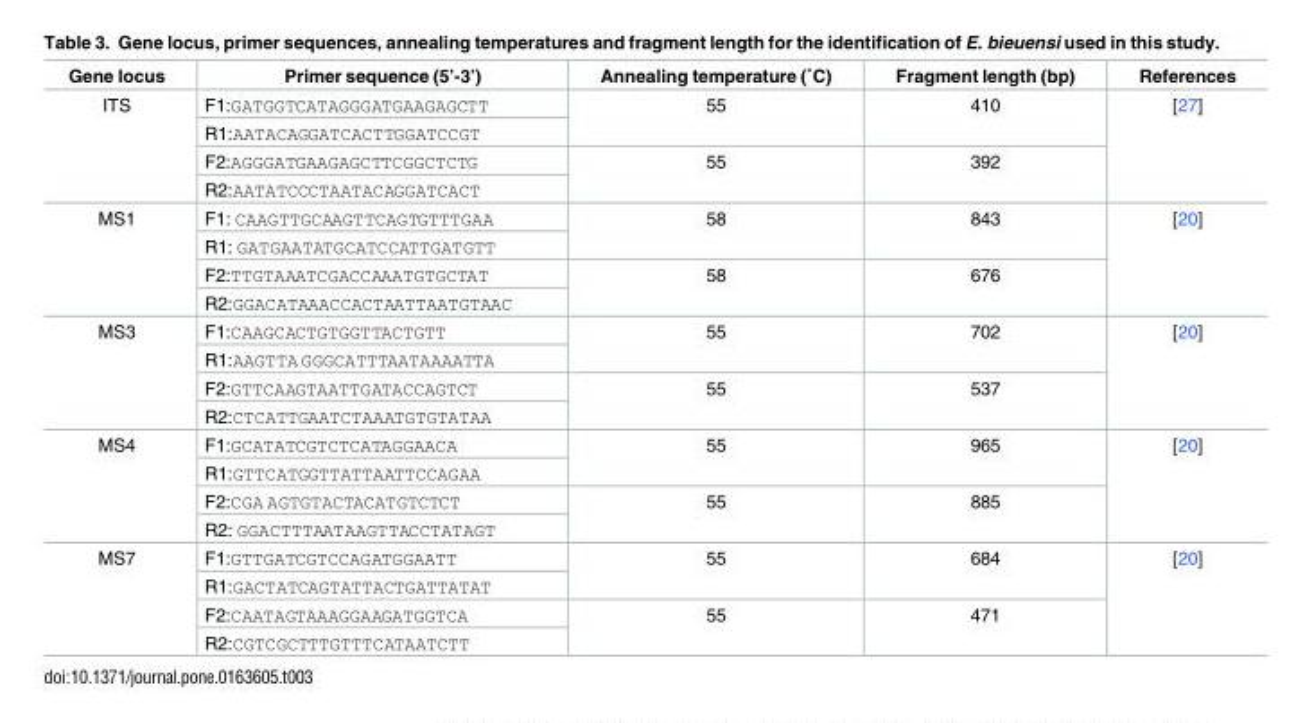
<table><thead><tr><td>Gene locus</td><td>Primer sequence (5’-3’)</td><td>Annealing temperature (˚C)</td><td>Fragment length (bp)</td><td>References</td></tr></thead><tbody><tr><td rowspan="4">ITS</td><td>F1:GATGGTCATAGGGATGAAGAGCTT</td><td rowspan="2">55</td><td rowspan="2">410</td><td rowspan="4">[27]</td></tr><tr><td>R1:AATACAGGATCACTTGGATCCGT</td></tr><tr><td>F2:AGGGATGAAGAGCTTCGGCTCTG</td><td rowspan="2">55</td><td rowspan="2">392</td></tr><tr><td>R2:AATATCCCTAATACAGGATCACT</td></tr><tr><td rowspan="4">MS1</td><td>F1: CAAGTTGCAAGTTCAGTGTTTGAA</td><td rowspan="2">58</td><td rowspan="2">843</td><td rowspan="4">[20]</td></tr><tr><td>R1: GATGAATATGCATCCATTGATGTT</td></tr><tr><td>F2:TTGTAAATCGACCAAATGTGCTAT</td><td rowspan="2">58</td><td rowspan="2">676</td></tr><tr><td>R2:GGACATAAACCACTAATTAATGTAAC</td></tr><tr><td rowspan="4">MS3</td><td>F1:CAAGCACTGTGGTTACTGTT</td><td rowspan="2">55</td><td rowspan="2">702</td><td rowspan="4">[20]</td></tr><tr><td>R1:AAGTTA GGGCATTTAATAAAATTA</td></tr><tr><td>F2:GTTCAAGTAATTGATACCAGTCT</td><td rowspan="2">55</td><td rowspan="2">537</td></tr><tr><td>R2:CTCATTGAATCTAAATGTGTATAA</td></tr><tr><td rowspan="4">MS4</td><td>F1:GCATATCGTCTCATAGGAACA</td><td rowspan="2">55</td><td rowspan="2">965</td><td rowspan="4">[20]</td></tr><tr><td>R1:GTTCATGGTTATTAATTCCAGAA</td></tr><tr><td>F2:CGA AGTGTACTACATGTCTCT</td><td rowspan="2">55</td><td rowspan="2">885</td></tr><tr><td>R2: GGACTTTAATAAGTTACCTATAGT</td></tr><tr><td rowspan="4">MS7</td><td>F1:GTTGATCGTCCAGATGGAATT</td><td rowspan="2">55</td><td rowspan="2">684</td><td rowspan="4">[20]</td></tr><tr><td>R1:GACTATCAGTATTACTGATTATAT</td></tr><tr><td>F2:CAATAGTAAAGGAAGATGGTCA</td><td rowspan="2">55</td><td rowspan="2">471</td></tr><tr><td>R2:CGTCGCTTTGTTTCATAATCTT</td></tr></tbody></table>